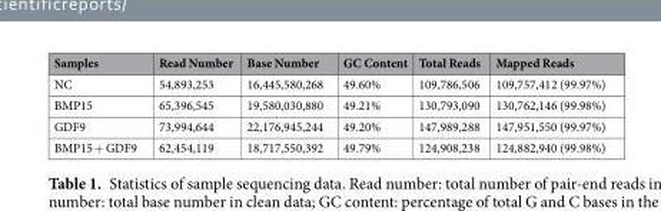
<table><thead><tr><td>Samples</td><td>Read Number</td><td>Base Number</td><td>GC Content</td><td>Total Reads</td><td>Mapped Reads</td></tr></thead><tbody><tr><td>NC</td><td>54,893,253</td><td>16,445,580,268</td><td>49.60%</td><td>109,786,506</td><td>109,757,412 (99.97%)</td></tr><tr><td>BMP15</td><td>65,396,545</td><td>19,580,030,880</td><td>49.21%</td><td>130,793,090</td><td>130,762,146 (99.98%)</td></tr><tr><td>GDF9</td><td>73,994,644</td><td>22,176,945,244</td><td>49.20%</td><td>147,989,288</td><td>147,951,550 (99.97%)</td></tr><tr><td>BMP15 + GDF9</td><td>62,454,119</td><td>18,717,550,392</td><td>49.79%</td><td>124,908,238</td><td>124,882,940 (99.98%)</td></tr></tbody></table>